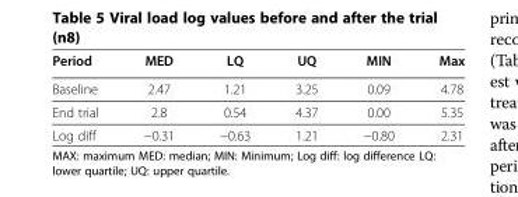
<table><thead><tr><td>Period</td><td>MED</td><td>LQ</td><td>UQ</td><td>MIN</td><td>Max</td></tr></thead><tbody><tr><td>Baseline</td><td>2.47</td><td>1.21</td><td>3.25</td><td>0.09</td><td>4.78</td></tr><tr><td>End trial</td><td>2.8</td><td>0.54</td><td>4.37</td><td>0.00</td><td>5.35</td></tr><tr><td>Log diff</td><td>−0.31</td><td>−0.63</td><td>1.21</td><td>−0.80</td><td>2.31</td></tr></tbody></table>